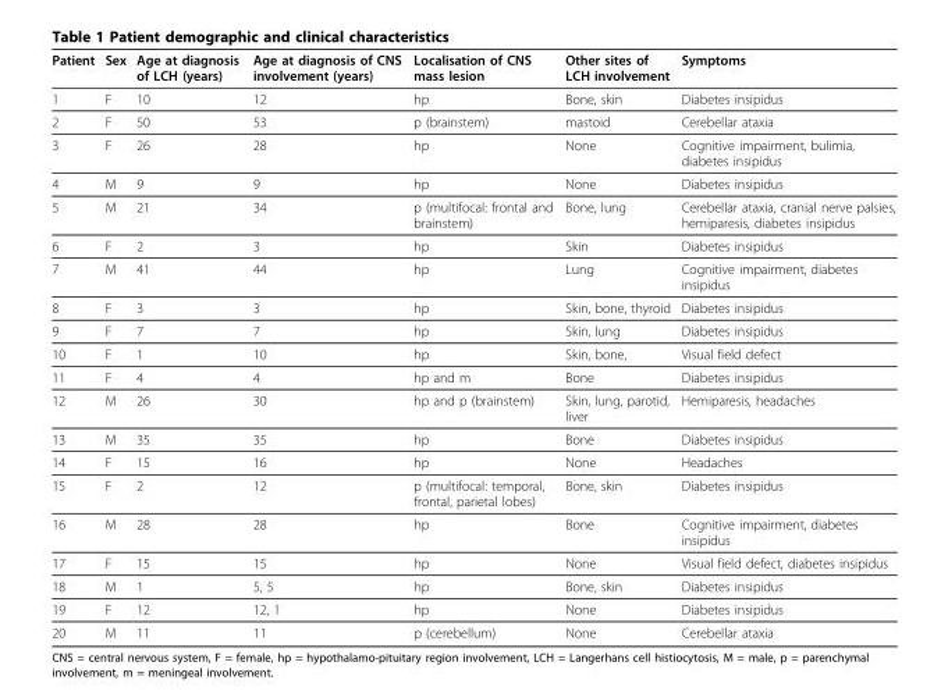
<table><thead><tr><td>Patient</td><td>Sex</td><td>Age at diagnosis of LCH (years)</td><td>Age at diagnosis of CNS involvement (years)</td><td>Localisation of CNS mass lesion</td><td>Other sites of LCH involvement</td><td>Symptoms</td></tr></thead><tbody><tr><td>1</td><td>F</td><td>10</td><td>12</td><td>hp</td><td>Bone, skin</td><td>Diabetes insipidus</td></tr><tr><td>2</td><td>F</td><td>50</td><td>53</td><td>p (brainstem)</td><td>mastoid</td><td>Cerebellar ataxia</td></tr><tr><td>3</td><td>F</td><td>26</td><td>28</td><td>hp</td><td>None</td><td>Cognitive impairment, bulimia, diabetes insipidus</td></tr><tr><td>4</td><td>M</td><td>9</td><td>9</td><td>hp</td><td>None</td><td>Diabetes insipidus</td></tr><tr><td>5</td><td>M</td><td>21</td><td>34</td><td>p (multifocal: frontal and brainstem)</td><td>Bone, lung</td><td>Cerebellar ataxia, cranial nerve palsies, hemiparesis, diabetes insipidus</td></tr><tr><td>6</td><td>F</td><td>2</td><td>3</td><td>hp</td><td>Skin</td><td>Diabetes insipidus</td></tr><tr><td>7</td><td>M</td><td>41</td><td>44</td><td>hp</td><td>Lung</td><td>Cognitive impairment, diabetes insipidus</td></tr><tr><td>8</td><td>F</td><td>3</td><td>3</td><td>hp</td><td>Skin, bone, thyroid</td><td>Diabetes insipidus</td></tr><tr><td>9</td><td>F</td><td>7</td><td>7</td><td>hp</td><td>Skin, lung</td><td>Diabetes insipidus</td></tr><tr><td>10</td><td>F</td><td>1</td><td>10</td><td>hp</td><td>Skin, bone,</td><td>Visual field defect</td></tr><tr><td>11</td><td>F</td><td>4</td><td>4</td><td>hp and m</td><td>Bone</td><td>Diabetes insipidus</td></tr><tr><td>12</td><td>M</td><td>26</td><td>30</td><td>hp and p (brainstem)</td><td>Skin, lung, parotid, liver</td><td>Hemiparesis, headaches</td></tr><tr><td>13</td><td>M</td><td>35</td><td>35</td><td>hp</td><td>Bone</td><td>Diabetes insipidus</td></tr><tr><td>14</td><td>F</td><td>15</td><td>16</td><td>hp</td><td>None</td><td>Headaches</td></tr><tr><td>15</td><td>F</td><td>2</td><td>12</td><td>p (multifocal: temporal, frontal, parietal lobes)</td><td>Bone, skin</td><td>Diabetes insipidus</td></tr><tr><td>16</td><td>M</td><td>28</td><td>28</td><td>hp</td><td>Bone</td><td>Cognitive impairment, diabetes insipidus</td></tr><tr><td>17</td><td>F</td><td>15</td><td>15</td><td>hp</td><td>None</td><td>Visual field defect, diabetes insipidus</td></tr><tr><td>18</td><td>M</td><td>1</td><td>5, 5</td><td>hp</td><td>Bone, skin</td><td>Diabetes insipidus</td></tr><tr><td>19</td><td>F</td><td>12</td><td>12, 1</td><td>hp</td><td>None</td><td>Diabetes insipidus</td></tr><tr><td>20</td><td>M</td><td>11</td><td>11</td><td>p (cerebellum)</td><td>None</td><td>Cerebellar ataxia</td></tr></tbody></table>